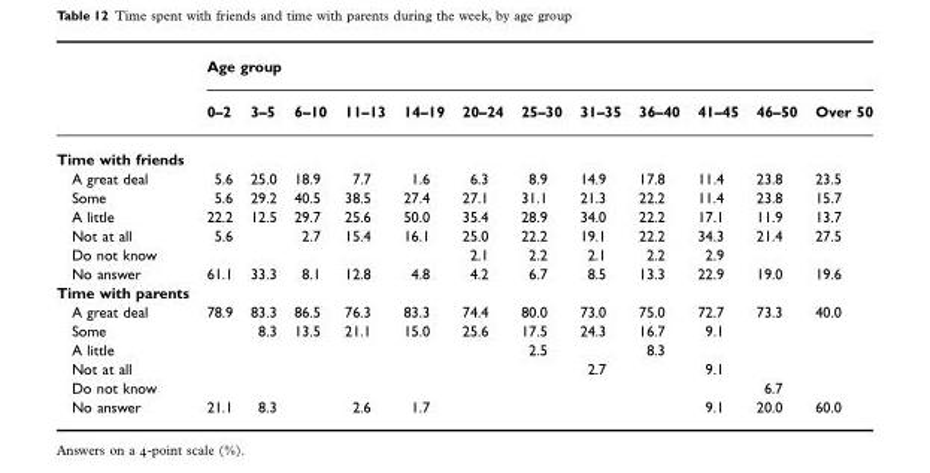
<table><thead><tr><td rowspan="2"></td><td colspan="12">Age group</td></tr><tr><td>0–2</td><td>3–5</td><td>6–10</td><td>11–13</td><td>14–19</td><td>20–24</td><td>25–30</td><td>31–35</td><td>36–40</td><td>41–45</td><td>46–50</td><td>Over 50</td></tr></thead><tbody><tr><td colspan="13">Time with friends</td></tr><tr><td>A great deal</td><td>5.6</td><td>25.0</td><td>18.9</td><td>7.7</td><td>1.6</td><td>6.3</td><td>8.9</td><td>14.9</td><td>17.8</td><td>11.4</td><td>23.8</td><td>23.5</td></tr><tr><td>Some</td><td>5.6</td><td>29.2</td><td>40.5</td><td>38.5</td><td>27.4</td><td>27.1</td><td>31.1</td><td>21.3</td><td>22.2</td><td>11.4</td><td>23.8</td><td>15.7</td></tr><tr><td>A little</td><td>22.2</td><td>12.5</td><td>29.7</td><td>25.6</td><td>50.0</td><td>35.4</td><td>28.9</td><td>34.0</td><td>22.2</td><td>17.1</td><td>11.9</td><td>13.7</td></tr><tr><td>Not at all</td><td>5.6</td><td></td><td>2.7</td><td>15.4</td><td>16.1</td><td>25.0</td><td>22.2</td><td>19.1</td><td>22.2</td><td>34.3</td><td>21.4</td><td>27.5</td></tr><tr><td>Do not know</td><td></td><td></td><td></td><td></td><td></td><td>2.1</td><td>2.2</td><td>2.1</td><td>2.2</td><td>2.9</td><td></td><td></td></tr><tr><td>No answer</td><td>61.1</td><td>33.3</td><td>8.1</td><td>12.8</td><td>4.8</td><td>4.2</td><td>6.7</td><td>8.5</td><td>13.3</td><td>22.9</td><td>19.0</td><td>19.6</td></tr><tr><td colspan="13">Time with parents</td></tr><tr><td>A great deal</td><td>78.9</td><td>83.3</td><td>86.5</td><td>76.3</td><td>83.3</td><td>74.4</td><td>80.0</td><td>73.0</td><td>75.0</td><td>72.7</td><td>73.3</td><td>40.0</td></tr><tr><td>Some</td><td></td><td>8.3</td><td>13.5</td><td>21.1</td><td>15.0</td><td>25.6</td><td>17.5</td><td>24.3</td><td>16.7</td><td>9.1</td><td></td><td></td></tr><tr><td>A little</td><td></td><td></td><td></td><td></td><td></td><td></td><td>2.5</td><td></td><td>8.3</td><td></td><td></td><td></td></tr><tr><td>Not at all</td><td></td><td></td><td></td><td></td><td></td><td></td><td></td><td>2.7</td><td></td><td>9.1</td><td></td><td></td></tr><tr><td>Do not know</td><td></td><td></td><td></td><td></td><td></td><td></td><td></td><td></td><td></td><td></td><td>6.7</td><td></td></tr><tr><td>No answer</td><td>21.1</td><td>8.3</td><td></td><td>2.6</td><td>1.7</td><td></td><td></td><td></td><td></td><td>9.1</td><td>20.0</td><td>60.0</td></tr></tbody></table>